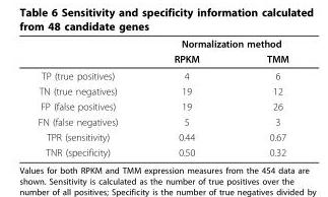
<table><thead><tr><td rowspan="2"></td><td colspan="2">Normalization method</td></tr><tr><td>RPKM</td><td>TMM</td></tr></thead><tbody><tr><td>TP (true positives)</td><td>4</td><td>6</td></tr><tr><td>TN (true negatives)</td><td>19</td><td>12</td></tr><tr><td>FP (false positives)</td><td>19</td><td>26</td></tr><tr><td>FN (false negatives)</td><td>5</td><td>3</td></tr><tr><td>TPR (sensitivity)</td><td>0.44</td><td>0.67</td></tr><tr><td>TNR (specificity)</td><td>0.50</td><td>0.32</td></tr></tbody></table>